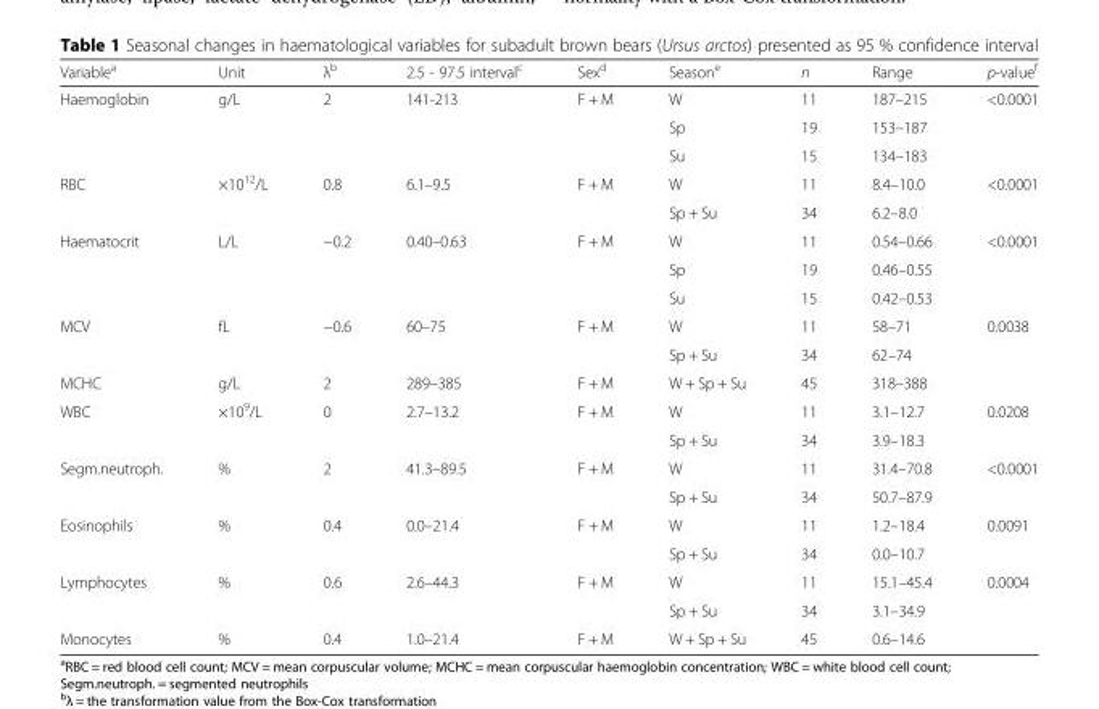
<table><thead><tr><td>Variable<sup>a</sup></td><td>Unit</td><td>λ<sup>b</sup></td><td>2.5 - 97.5 interval<sup>c</sup></td><td>Sex<sup>d</sup></td><td>Season<sup>e</sup></td><td>n</td><td>Range</td><td>p-value<sup>f</sup></td></tr></thead><tbody><tr><td rowspan="3">Haemoglobin</td><td rowspan="3">g/L</td><td rowspan="3">2</td><td rowspan="3">141-213</td><td rowspan="3">F + M</td><td>W</td><td>11</td><td>187–215</td><td rowspan="3">&lt;0.0001</td></tr><tr><td>Sp</td><td>19</td><td>153–187</td></tr><tr><td>Su</td><td>15</td><td>134–183</td></tr><tr><td rowspan="2">RBC</td><td rowspan="2">×10<sup>12</sup>/L</td><td rowspan="2">0.8</td><td rowspan="2">6.1–9.5</td><td rowspan="2">F + M</td><td>W</td><td>11</td><td>8.4–10.0</td><td rowspan="2">&lt;0.0001</td></tr><tr><td>Sp + Su</td><td>34</td><td>6.2–8.0</td></tr><tr><td rowspan="3">Haematocrit</td><td rowspan="3">L/L</td><td rowspan="3">−0.2</td><td rowspan="3">0.40–0.63</td><td rowspan="3">F + M</td><td>W</td><td>11</td><td>0.54–0.66</td><td rowspan="3">&lt;0.0001</td></tr><tr><td>Sp</td><td>19</td><td>0.46–0.55</td></tr><tr><td>Su</td><td>15</td><td>0.42–0.53</td></tr><tr><td rowspan="2">MCV</td><td rowspan="2">fL</td><td rowspan="2">−0.6</td><td rowspan="2">60–75</td><td rowspan="2">F + M</td><td>W</td><td>11</td><td>58–71</td><td rowspan="2">0.0038</td></tr><tr><td>Sp + Su</td><td>34</td><td>62–74</td></tr><tr><td>MCHC</td><td>g/L</td><td>2</td><td>289–385</td><td>F + M</td><td>W + Sp + Su</td><td>45</td><td>318–388</td><td></td></tr><tr><td rowspan="2">WBC</td><td rowspan="2">×10<sup>9</sup>/L</td><td rowspan="2">0</td><td rowspan="2">2.7–13.2</td><td rowspan="2">F + M</td><td>W</td><td>11</td><td>3.1–12.7</td><td rowspan="2">0.0208</td></tr><tr><td>Sp + Su</td><td>34</td><td>3.9–18.3</td></tr><tr><td rowspan="2">Segm.neutroph.</td><td rowspan="2">%</td><td rowspan="2">2</td><td rowspan="2">41.3–89.5</td><td rowspan="2">F + M</td><td>W</td><td>11</td><td>31.4–70.8</td><td rowspan="2">&lt;0.0001</td></tr><tr><td>Sp + Su</td><td>34</td><td>50.7–87.9</td></tr><tr><td rowspan="2">Eosinophils</td><td rowspan="2">%</td><td rowspan="2">0.4</td><td rowspan="2">0.0–21.4</td><td rowspan="2">F + M</td><td>W</td><td>11</td><td>1.2–18.4</td><td rowspan="2">0.0091</td></tr><tr><td>Sp + Su</td><td>34</td><td>0.0–10.7</td></tr><tr><td rowspan="2">Lymphocytes</td><td rowspan="2">%</td><td rowspan="2">0.6</td><td rowspan="2">2.6–44.3</td><td rowspan="2">F + M</td><td>W</td><td>11</td><td>15.1–45.4</td><td rowspan="2">0.0004</td></tr><tr><td>Sp + Su</td><td>34</td><td>3.1–34.9</td></tr><tr><td>Monocytes</td><td>%</td><td>0.4</td><td>1.0–21.4</td><td>F + M</td><td>W + Sp + Su</td><td>45</td><td>0.6–14.6</td><td></td></tr></tbody></table>